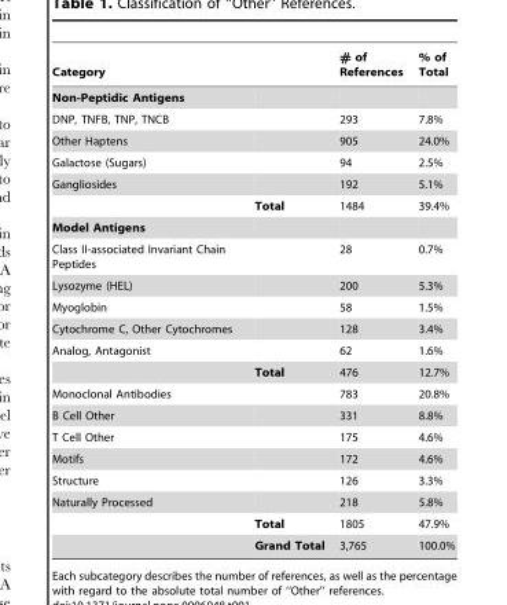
<table><thead><tr><td>Category</td><td></td><td># of References</td><td>% of Total</td></tr></thead><tbody><tr><td colspan="4">Non-Peptidic Antigens</td></tr><tr><td>DNP, TNFB, TNP, TNCB</td><td></td><td>293</td><td>7.8%</td></tr><tr><td>Other Haptens</td><td></td><td>905</td><td>24.0%</td></tr><tr><td>Galactose (Sugars)</td><td></td><td>94</td><td>2.5%</td></tr><tr><td rowspan="2">Gangliosides</td><td></td><td>192</td><td>5.1%</td></tr><tr><td>Total</td><td>1484</td><td>39.4%</td></tr><tr><td colspan="4">Model Antigens</td></tr><tr><td>Class II-associated Invariant Chain Peptides</td><td></td><td>28</td><td>0.7%</td></tr><tr><td>Lysozyme (HEL)</td><td></td><td>200</td><td>5.3%</td></tr><tr><td>Myoglobin</td><td></td><td>58</td><td>1.5%</td></tr><tr><td>Cytochrome C, Other Cytochromes</td><td></td><td>128</td><td>3.4%</td></tr><tr><td rowspan="2">Analog, Antagonist</td><td></td><td>62</td><td>1.6%</td></tr><tr><td>Total</td><td>476</td><td>12.7%</td></tr><tr><td>Monoclonal Antibodies</td><td></td><td>783</td><td>20.8%</td></tr><tr><td>B Cell Other</td><td></td><td>331</td><td>8.8%</td></tr><tr><td>T Cell Other</td><td></td><td>175</td><td>4.6%</td></tr><tr><td>Motifs</td><td></td><td>172</td><td>4.6%</td></tr><tr><td>Structure</td><td></td><td>126</td><td>3.3%</td></tr><tr><td rowspan="3">Naturally Processed</td><td></td><td>218</td><td>5.8%</td></tr><tr><td>Total</td><td>1805</td><td>47.9%</td></tr><tr><td>Grand Total</td><td>3,765</td><td>100.0%</td></tr></tbody></table>